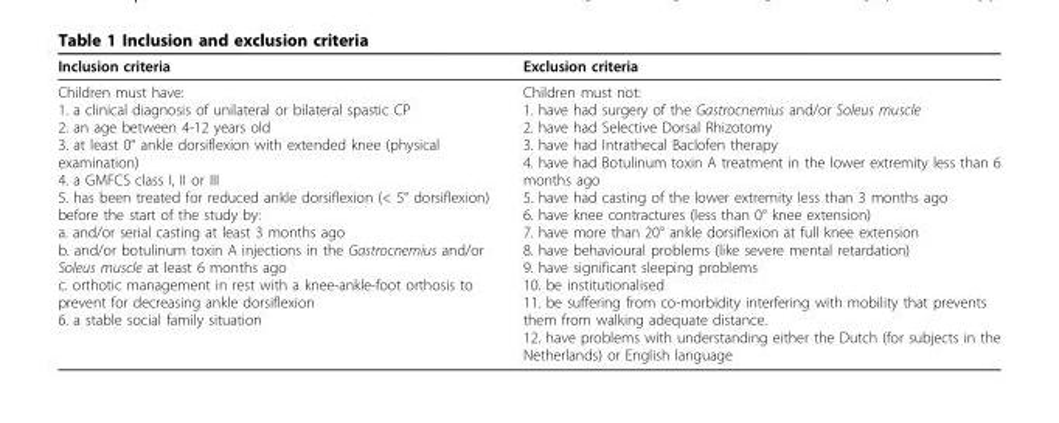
<table><thead><tr><td>Inclusion criteria</td><td>Exclusion criteria</td></tr></thead><tbody><tr><td>Children must have: 1. a clinical diagnosis of unilateral or bilateral spastic CP 2. an age between 4-12 years old 3. at least 0° ankle dorsiflexion with extended knee (physical examination) 4. a GMFCS class I, II or III 5. has been treated for reduced ankle dorsiflexion (&lt; 5° dorsiflexion) before the start of the study by: a. and/or serial casting at least 3 months ago b. and/or botulinum toxin A injections in the Gastrocnemius and/or Soleus muscle at least 6 months ago c. orthotic management in rest with a knee-ankle-foot orthosis to prevent for decreasing ankle dorsiflexion 6. a stable social family situation</td><td>Children must not: 1. have had surgery of the Gastrocnemius and/or Soleus muscle 2. have had Selective Dorsal Rhizotomy 3. have had Intrathecal Baclofen therapy 4. have had Botulinum toxin A treatment in the lower extremity less than 6 months ago 5. have had casting of the lower extremity less than 3 months ago 6. have knee contractures (less than 0° knee extension) 7. have more than 20° ankle dorsiflexion at full knee extension 8. have behavioural problems (like severe mental retardation) 9. have significant sleeping problems 10. be institutionalised 11. be suffering from co-morbidity interfering with mobility that prevents them from walking adequate distance. 12. have problems with understanding either the Dutch (for subjects in the Netherlands) or English language</td></tr></tbody></table>